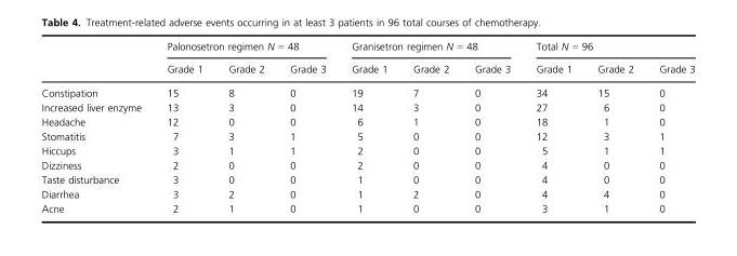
<table><thead><tr><td rowspan="2"></td><td colspan="3">Palonosetron regimen N = 48</td><td colspan="3">Granisetron regimen N = 48</td><td colspan="3">Total N = 96</td></tr><tr><td>Grade 1</td><td>Grade 2</td><td>Grade 3</td><td>Grade 1</td><td>Grade 2</td><td>Grade 3</td><td>Grade 1</td><td>Grade 2</td><td>Grade 3</td></tr></thead><tbody><tr><td>Constipation</td><td>15</td><td>8</td><td>0</td><td>19</td><td>7</td><td>0</td><td>34</td><td>15</td><td>0</td></tr><tr><td>Increased liver enzyme</td><td>13</td><td>3</td><td>0</td><td>14</td><td>3</td><td>0</td><td>27</td><td>6</td><td>0</td></tr><tr><td>Headache</td><td>12</td><td>0</td><td>0</td><td>6</td><td>1</td><td>0</td><td>18</td><td>1</td><td>0</td></tr><tr><td>Stomatitis</td><td>7</td><td>3</td><td>1</td><td>5</td><td>0</td><td>0</td><td>12</td><td>3</td><td>1</td></tr><tr><td>Hiccups</td><td>3</td><td>1</td><td>1</td><td>2</td><td>0</td><td>0</td><td>5</td><td>1</td><td>1</td></tr><tr><td>Dizziness</td><td>2</td><td>0</td><td>0</td><td>2</td><td>0</td><td>0</td><td>4</td><td>0</td><td>0</td></tr><tr><td>Taste disturbance</td><td>3</td><td>0</td><td>0</td><td>1</td><td>0</td><td>0</td><td>4</td><td>0</td><td>0</td></tr><tr><td>Diarrhea</td><td>3</td><td>2</td><td>0</td><td>1</td><td>2</td><td>0</td><td>4</td><td>4</td><td>0</td></tr><tr><td>Acne</td><td>2</td><td>1</td><td>0</td><td>1</td><td>0</td><td>0</td><td>3</td><td>1</td><td>0</td></tr></tbody></table>